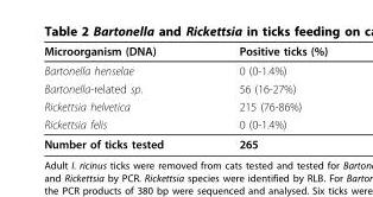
<table><thead><tr><td>Microorganism (DNA)</td><td>Positive ticks (%)</td></tr></thead><tbody><tr><td>Bartonella henselae</td><td>0 (0-1.4%)</td></tr><tr><td>Bartonella-related sp.</td><td>56 (16-27%)</td></tr><tr><td>Rickettsia helvetica</td><td>215 (76-86%)</td></tr><tr><td>Rickettsia felis</td><td>0 (0-1.4%)</td></tr><tr><td>Number of ticks tested</td><td>265</td></tr></tbody></table>